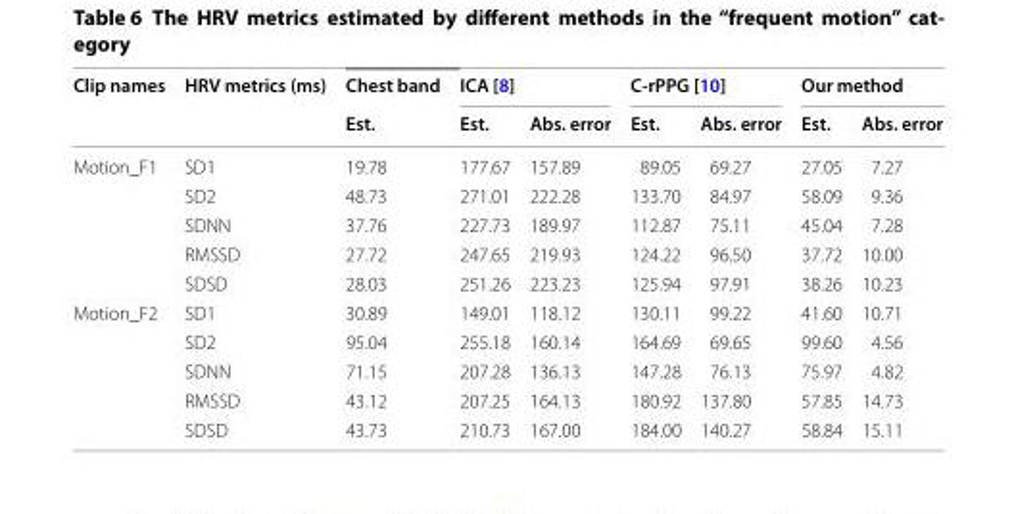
<table><thead><tr><td rowspan="2">Clip names</td><td rowspan="2">HRV metrics (ms)</td><td rowspan="2">Chest band Est.</td><td colspan="2">ICA [8]</td><td colspan="2">C‑rPPG [10]</td><td colspan="2">Our method</td></tr><tr><td>Est.</td><td>Abs. error</td><td>Est.</td><td>Abs. error</td><td>Est.</td><td>Abs. error</td></tr></thead><tbody><tr><td rowspan="5">Motion_F1</td><td>SD1</td><td>19.78</td><td>177.67</td><td>157.89</td><td>89.05</td><td>69.27</td><td>27.05</td><td>7.27</td></tr><tr><td>SD2</td><td>48.73</td><td>271.01</td><td>222.28</td><td>133.70</td><td>84.97</td><td>58.09</td><td>9.36</td></tr><tr><td>SDNN</td><td>37.76</td><td>227.73</td><td>189.97</td><td>112.87</td><td>75.11</td><td>45.04</td><td>7.28</td></tr><tr><td>RMSSD</td><td>27.72</td><td>247.65</td><td>219.93</td><td>124.22</td><td>96.50</td><td>37.72</td><td>10.00</td></tr><tr><td>SDSD</td><td>28.03</td><td>251.26</td><td>223.23</td><td>125.94</td><td>97.91</td><td>38.26</td><td>10.23</td></tr><tr><td rowspan="5">Motion_F2</td><td>SD1</td><td>30.89</td><td>149.01</td><td>118.12</td><td>130.11</td><td>99.22</td><td>41.60</td><td>10.71</td></tr><tr><td>SD2</td><td>95.04</td><td>255.18</td><td>160.14</td><td>164.69</td><td>69.65</td><td>99.60</td><td>4.56</td></tr><tr><td>SDNN</td><td>71.15</td><td>207.28</td><td>136.13</td><td>147.28</td><td>76.13</td><td>75.97</td><td>4.82</td></tr><tr><td>RMSSD</td><td>43.12</td><td>207.25</td><td>164.13</td><td>180.92</td><td>137.80</td><td>57.85</td><td>14.73</td></tr><tr><td>SDSD</td><td>43.73</td><td>210.73</td><td>167.00</td><td>184.00</td><td>140.27</td><td>58.84</td><td>15.11</td></tr></tbody></table>